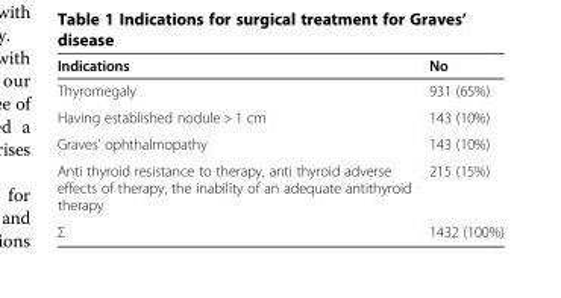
<table><thead><tr><td>Indications</td><td>No</td></tr></thead><tbody><tr><td>Thyromegaly</td><td>931 (65%)</td></tr><tr><td>Having established nodule &gt; 1 cm</td><td>143 (10%)</td></tr><tr><td>Graves’ ophthalmopathy</td><td>143 (10%)</td></tr><tr><td>Anti thyroid resistance to therapy, anti thyroid adverse effects of therapy, the inability of an adequate antithyroid therapy</td><td>215 (15%)</td></tr><tr><td>Σ</td><td>1432 (100%)</td></tr></tbody></table>